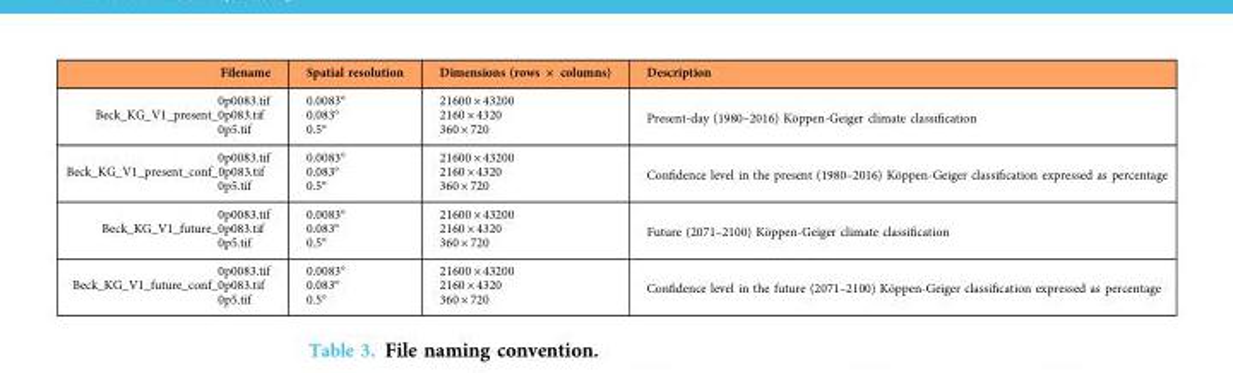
<table><thead><tr><td>Filename</td><td>Spatial resolution</td><td>Dimensions (rows × columns)</td><td>Description</td></tr></thead><tbody><tr><td>0p0083.tif Beck_KG_V1_present_0p083.tif 0p5.tif</td><td>0.0083° 0.083° 0.5°</td><td>21600 × 43200 2160 × 4320 360 × 720</td><td>Present-day (1980–2016) Köppen-Geiger climate classification</td></tr><tr><td>0p0083.tif Beck_KG_V1_present_conf_0p083.tif 0p5.tif</td><td>0.0083° 0.083° 0.5°</td><td>21600 × 43200 2160 × 4320 360 × 720</td><td>Confidence level in the present (1980–2016) Köppen-Geiger classification expressed as percentage</td></tr><tr><td>0p0083.tif Beck_KG_V1_future_0p083.tif 0p5.tif</td><td>0.0083° 0.083° 0.5°</td><td>21600 × 43200 2160 × 4320 360 × 720</td><td>Future (2071–2100) Köppen-Geiger climate classification</td></tr><tr><td>0p0083.tif Beck_KG_V1_future_conf_0p083.tif 0p5.tif</td><td>0.0083° 0.083° 0.5°</td><td>21600 × 43200 2160 × 4320 360 × 720</td><td>Confidence level in the future (2071–2100) Köppen-Geiger classification expressed as percentage</td></tr></tbody></table>